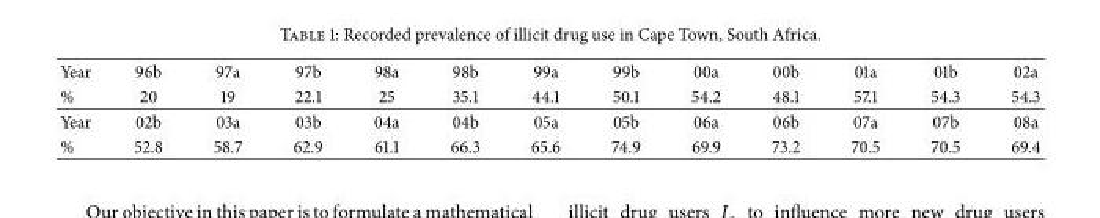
<table><tbody><tr><td>Year</td><td>96b</td><td>97a</td><td>97b</td><td>98a</td><td>98b</td><td>99a</td><td>99b</td><td>00a</td><td>00b</td><td>01a</td><td>01b</td><td>02a</td></tr><tr><td>%</td><td>20</td><td>19</td><td>22.1</td><td>25</td><td>35.1</td><td>44.1</td><td>50.1</td><td>54.2</td><td>48.1</td><td>57.1</td><td>54.3</td><td>54.3</td></tr><tr><td>Year</td><td>02b</td><td>03a</td><td>03b</td><td>04a</td><td>04b</td><td>05a</td><td>05b</td><td>06a</td><td>06b</td><td>07a</td><td>07b</td><td>08a</td></tr><tr><td>%</td><td>52.8</td><td>58.7</td><td>62.9</td><td>61.1</td><td>66.3</td><td>65.6</td><td>74.9</td><td>69.9</td><td>73.2</td><td>70.5</td><td>70.5</td><td>69.4</td></tr></tbody></table>